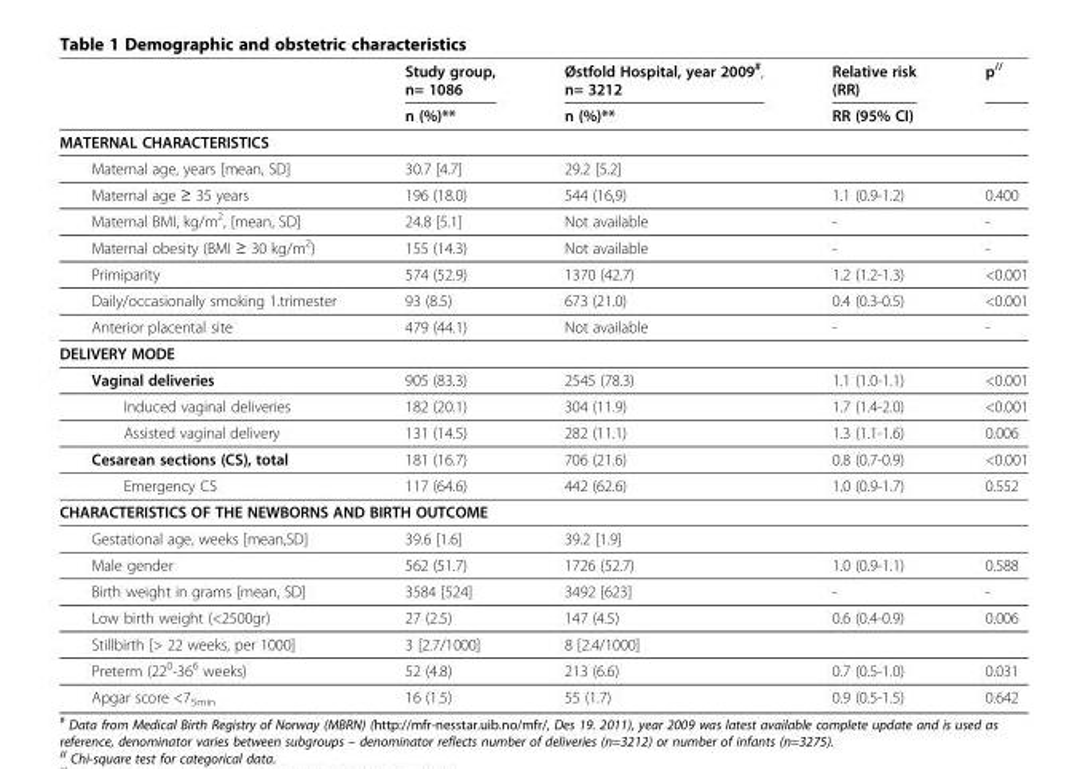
<table><thead><tr><td rowspan="2"></td><td rowspan="2">Study group, n= 1086 n (%)**</td><td rowspan="2">Østfold Hospital, year 2009<sup>#</sup>, n= 3212 n (%)**</td><td rowspan="2">Relative risk (RR) RR (95% CI)</td><td rowspan="2">p<sup>//</sup></td></tr><tr></tr></thead><tbody><tr><td colspan="5">MATERNAL CHARACTERISTICS</td></tr><tr><td>Maternal age, years [mean, SD]</td><td>30.7 [4.7]</td><td>29.2 [5.2]</td><td></td><td></td></tr><tr><td>Maternal age ≥ 35 years</td><td>196 (18.0)</td><td>544 (16,9)</td><td>1.1 (0.9-1.2)</td><td>0.400</td></tr><tr><td>Maternal BMI, kg/m<sup>2</sup>, [mean, SD]</td><td>24.8 [5.1]</td><td>Not available</td><td>-</td><td>-</td></tr><tr><td>Maternal obesity (BMI ≥ 30 kg/m<sup>2</sup>)</td><td>155 (14.3)</td><td>Not available</td><td>-</td><td>-</td></tr><tr><td>Primiparity</td><td>574 (52.9)</td><td>1370 (42.7)</td><td>1.2 (1.2-1.3)</td><td>&lt;0.001</td></tr><tr><td>Daily/occasionally smoking 1.trimester</td><td>93 (8.5)</td><td>673 (21.0)</td><td>0.4 (0.3-0.5)</td><td>&lt;0.001</td></tr><tr><td>Anterior placental site</td><td>479 (44.1)</td><td>Not available</td><td>-</td><td>-</td></tr><tr><td colspan="5">DELIVERY MODE</td></tr><tr><td>Vaginal deliveries</td><td>905 (83.3)</td><td>2545 (78.3)</td><td>1.1 (1.0-1.1)</td><td>&lt;0.001</td></tr><tr><td>Induced vaginal deliveries</td><td>182 (20.1)</td><td>304 (11.9)</td><td>1.7 (1.4-2.0)</td><td>&lt;0.001</td></tr><tr><td>Assisted vaginal delivery</td><td>131 (14.5)</td><td>282 (11.1)</td><td>1.3 (1.1-1.6)</td><td>0.006</td></tr><tr><td>Cesarean sections (CS), total</td><td>181 (16.7)</td><td>706 (21.6)</td><td>0.8 (0.7-0.9)</td><td>&lt;0.001</td></tr><tr><td>Emergency CS</td><td>117 (64.6)</td><td>442 (62.6)</td><td>1.0 (0.9-1.7)</td><td>0.552</td></tr><tr><td colspan="5">CHARACTERISTICS OF THE NEWBORNS AND BIRTH OUTCOME</td></tr><tr><td>Gestational age, weeks [mean,SD]</td><td>39.6 [1.6]</td><td>39.2 [1.9]</td><td></td><td></td></tr><tr><td>Male gender</td><td>562 (51.7)</td><td>1726 (52.7)</td><td>1.0 (0.9-1.1)</td><td>0.588</td></tr><tr><td>Birth weight in grams [mean, SD]</td><td>3584 [524]</td><td>3492 [623]</td><td>-</td><td>-</td></tr><tr><td>Low birth weight (&lt;2500gr)</td><td>27 (2.5)</td><td>147 (4.5)</td><td>0.6 (0.4-0.9)</td><td>0.006</td></tr><tr><td>Stillbirth [&gt; 22 weeks, per 1000]</td><td>3 [2.7/1000]</td><td>8 [2.4/1000]</td><td></td><td></td></tr><tr><td>Preterm (22<sup>0</sup>-36<sup>6</sup> weeks)</td><td>52 (4.8)</td><td>213 (6.6)</td><td>0.7 (0.5-1.0)</td><td>0.031</td></tr><tr><td>Apgar score &lt;7<sub>5min</sub></td><td>16 (1.5)</td><td>55 (1.7)</td><td>0.9 (0.5-1.5)</td><td>0.642</td></tr></tbody></table>